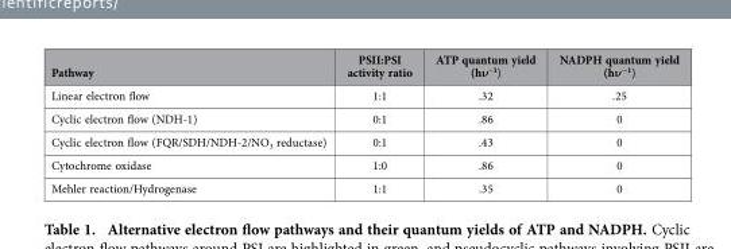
<table><thead><tr><td>Pathway</td><td>PSII:PSI activity ratio</td><td>ATP quantum yield (hν<sup>−1</sup>)</td><td>NADPH quantum yield (hν<sup>-1</sup>)</td></tr></thead><tbody><tr><td>Linear electron flow</td><td>1:1</td><td>.32</td><td>.25</td></tr><tr><td>Cyclic electron flow (NDH-1)</td><td>0:1</td><td>.86</td><td>0</td></tr><tr><td>Cyclic electron flow (FQR/SDH/NDH-2/NO<sub>3</sub> reductase)</td><td>0:1</td><td>.43</td><td>0</td></tr><tr><td>Cytochrome oxidase</td><td>1:0</td><td>.86</td><td>0</td></tr><tr><td>Mehler reaction/Hydrogenase</td><td>1:1</td><td>.35</td><td>0</td></tr></tbody></table>